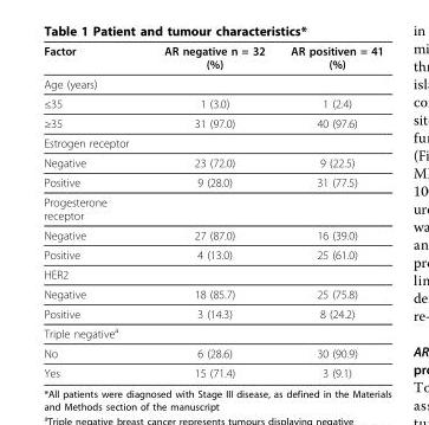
<table><thead><tr><td>Factor</td><td>AR negative n = 32 (%)</td><td>AR positiven = 41 (%)</td></tr></thead><tbody><tr><td colspan="3">Age (years)</td></tr><tr><td>≤35</td><td>1 (3.0)</td><td>1 (2.4)</td></tr><tr><td>≥35</td><td>31 (97.0)</td><td>40 (97.6)</td></tr><tr><td colspan="3">Estrogen receptor</td></tr><tr><td>Negative</td><td>23 (72.0)</td><td>9 (22.5)</td></tr><tr><td>Positive</td><td>9 (28.0)</td><td>31 (77.5)</td></tr><tr><td colspan="3">Progesterone receptor</td></tr><tr><td>Negative</td><td>27 (87.0)</td><td>16 (39.0)</td></tr><tr><td>Positive</td><td>4 (13.0)</td><td>25 (61.0)</td></tr><tr><td colspan="3">HER2</td></tr><tr><td>Negative</td><td>18 (85.7)</td><td>25 (75.8)</td></tr><tr><td>Positive</td><td>3 (14.3)</td><td>8 (24.2)</td></tr><tr><td colspan="3">Triple negative<sup>a</sup></td></tr><tr><td>No</td><td>6 (28.6)</td><td>30 (90.9)</td></tr><tr><td>Yes</td><td>15 (71.4)</td><td>3 (9.1)</td></tr></tbody></table>